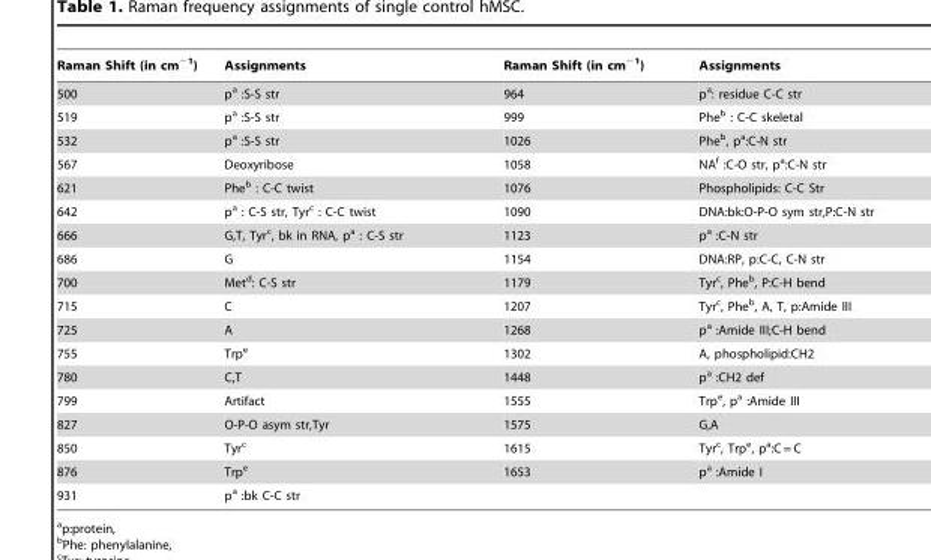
<table><thead><tr><td>Raman Shift (in cm<sup>−1</sup>)</td><td>Assignments</td><td>Raman Shift (in cm<sup>−1</sup>)</td><td>Assignments</td></tr></thead><tbody><tr><td>500</td><td>p<sup>a</sup> :S-S str</td><td>964</td><td>p<sup>a</sup>: residue C-C str</td></tr><tr><td>519</td><td>p<sup>a</sup> :S-S str</td><td>999</td><td>Phe<sup>b</sup> : C-C skeletal</td></tr><tr><td>532</td><td>p<sup>a</sup> :S-S str</td><td>1026</td><td>Phe<sup>b</sup>, p<sup>a</sup>:C-N str</td></tr><tr><td>567</td><td>Deoxyribose</td><td>1058</td><td>NA<sup>f</sup> :C-O str, p<sup>a</sup>:C-N str</td></tr><tr><td>621</td><td>Phe<sup>b</sup> : C-C twist</td><td>1076</td><td>Phospholipids: C-C Str</td></tr><tr><td>642</td><td>p<sup>a</sup> : C-S str, Tyr<sup>c</sup> : C-C twist</td><td>1090</td><td>DNA:bk:O-P-O sym str,P:C-N str</td></tr><tr><td>666</td><td>G,T, Tyr<sup>c</sup>, bk in RNA, p<sup>a</sup> : C-S str</td><td>1123</td><td>p<sup>a</sup> :C-N str</td></tr><tr><td>686</td><td>G</td><td>1154</td><td>DNA:RP, p:C-C, C-N str</td></tr><tr><td>700</td><td>Met<sup>d</sup>: C-S str</td><td>1179</td><td>Tyr<sup>c</sup>, Phe<sup>b</sup>, P:C-H bend</td></tr><tr><td>715</td><td>C</td><td>1207</td><td>Tyr<sup>c</sup>, Phe<sup>b</sup>, A, T, p:Amide III</td></tr><tr><td>725</td><td>A</td><td>1268</td><td>p<sup>a</sup> :Amide III;C-H bend</td></tr><tr><td>755</td><td>Trp<sup>e</sup></td><td>1302</td><td>A, phospholipid:CH2</td></tr><tr><td>780</td><td>C,T</td><td>1448</td><td>p<sup>a</sup> :CH2 def</td></tr><tr><td>799</td><td>Artifact</td><td>1555</td><td>Trp<sup>e</sup>, p<sup>a</sup> :Amide III</td></tr><tr><td>827</td><td>O-P-O asym str,Tyr</td><td>1575</td><td>G,A</td></tr><tr><td>850</td><td>Tyr<sup>c</sup></td><td>1615</td><td>Tyr<sup>c</sup>, Trp<sup>e</sup>, p<sup>a</sup>:C = C</td></tr><tr><td>876</td><td>Trp<sup>e</sup></td><td>1653</td><td>p<sup>a</sup> :Amide I</td></tr><tr><td>931</td><td>p<sup>a</sup> :bk C-C str</td><td></td><td></td></tr></tbody></table>